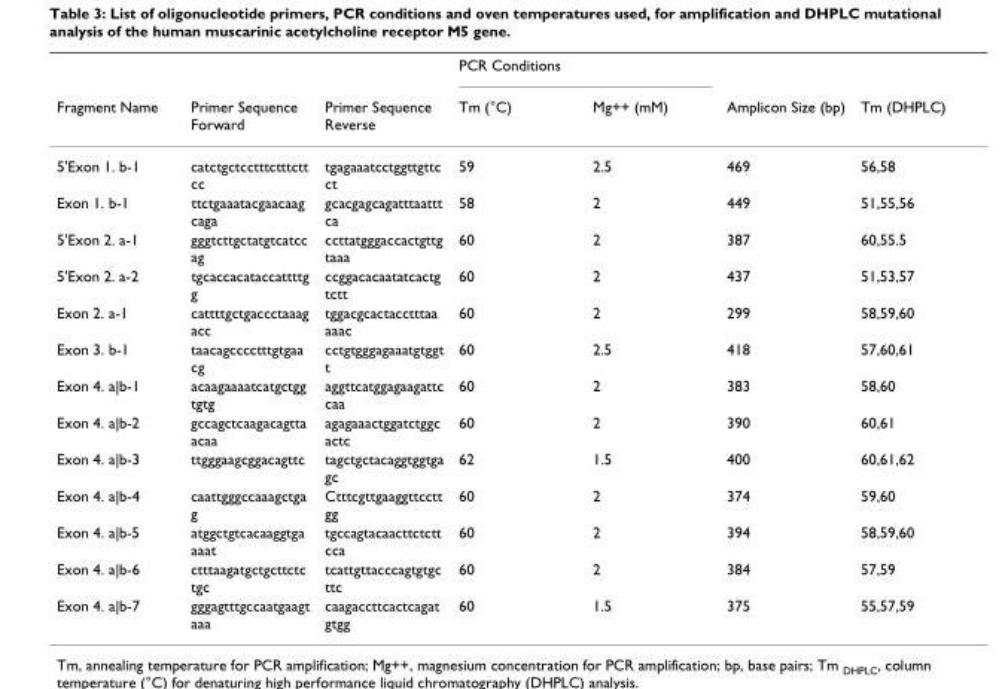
<table><thead><tr><td rowspan="2">Fragment Name</td><td rowspan="2">Primer Sequence Forward</td><td rowspan="2">Primer Sequence Reverse</td><td colspan="2">PCR Conditions</td><td rowspan="2">Amplicon Size (bp)</td><td rowspan="2">Tm (DHPLC)</td></tr><tr><td>Tm (°C)</td><td>Mg++ (mM)</td></tr></thead><tbody><tr><td>5&#x27;Exon 1. b-1</td><td>catctgctcctttctttctt cc</td><td>tgagaaatcctggttgttc ct</td><td>59</td><td>2.5</td><td>469</td><td>56,58</td></tr><tr><td>Exon 1. b-1</td><td>ttctgaaatacgaacaag caga</td><td>gcacgagcagatttaattt ca</td><td>58</td><td>2</td><td>449</td><td>51,55,56</td></tr><tr><td>5&#x27;Exon 2. a-1</td><td>gggtcttgctatgtcatcc ag</td><td>ccttatgggaccactgttg taaa</td><td>60</td><td>2</td><td>387</td><td>60,55.5</td></tr><tr><td>5&#x27;Exon 2. a-2</td><td>tgcaccacataccattttg g</td><td>ccggacacaatatcactg tctt</td><td>60</td><td>2</td><td>437</td><td>51,53,57</td></tr><tr><td>Exon 2. a-1</td><td>cattttgctgaccctaaag acc</td><td>tggacgcactacctttaa aaac</td><td>60</td><td>2</td><td>299</td><td>58,59,60</td></tr><tr><td>Exon 3. b-1</td><td>taacagcccctttgtgaa cg</td><td>cctgtgggagaaatgtggt t</td><td>60</td><td>2.5</td><td>418</td><td>57,60,61</td></tr><tr><td>Exon 4. a|b-1</td><td>acaagaaaatcatgctgg tgtg</td><td>aggttcatggagaagattc caa</td><td>60</td><td>2</td><td>383</td><td>58,60</td></tr><tr><td>Exon 4. a|b-2</td><td>gccagctcaagacagtta acaa</td><td>agagaaactggatctggc actc</td><td>60</td><td>2</td><td>390</td><td>60,61</td></tr><tr><td>Exon 4. a|b-3</td><td>ttgggaagcggacagttc</td><td>tagctgctacaggtggtga gc</td><td>62</td><td>1.5</td><td>400</td><td>60,61,62</td></tr><tr><td>Exon 4. a|b-4</td><td>caattgggccaaagctga g</td><td>Ctttcgttgaaggttcctt gg</td><td>60</td><td>2</td><td>374</td><td>59,60</td></tr><tr><td>Exon 4. a|b-5</td><td>atggctgtcacaaggtga aaat</td><td>tgccagtacaacttctctt cca</td><td>60</td><td>2</td><td>394</td><td>58,59,60</td></tr><tr><td>Exon 4. a|b-6</td><td>ctttaagatgctgcttctc tgc</td><td>tcattgttacccagtgtgc ttc</td><td>60</td><td>2</td><td>384</td><td>57,59</td></tr><tr><td>Exon 4. a|b-7</td><td>gggagtttgccaatgaagt aaa</td><td>caagaccttcactcagat gtgg</td><td>60</td><td>1.5</td><td>375</td><td>55,57,59</td></tr></tbody></table>